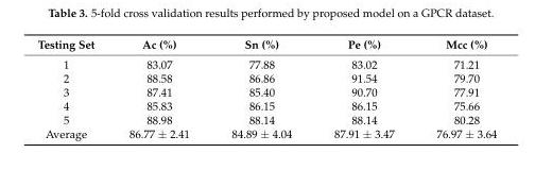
<table><thead><tr><td>Testing Set</td><td>Ac (%)</td><td>Sn (%)</td><td>Pe (%)</td><td>Mcc (%)</td></tr></thead><tbody><tr><td>1</td><td>83.07</td><td>77.88</td><td>83.02</td><td>71.21</td></tr><tr><td>2</td><td>88.58</td><td>86.86</td><td>91.54</td><td>79.70</td></tr><tr><td>3</td><td>87.41</td><td>85.40</td><td>90.70</td><td>77.91</td></tr><tr><td>4</td><td>85.83</td><td>86.15</td><td>86.15</td><td>75.66</td></tr><tr><td>5</td><td>88.98</td><td>88.14</td><td>88.14</td><td>80.28</td></tr><tr><td>Average</td><td>86.77 ± 2.41</td><td>84.89 ± 4.04</td><td>87.91 ± 3.47</td><td>76.97 ± 3.64</td></tr></tbody></table>